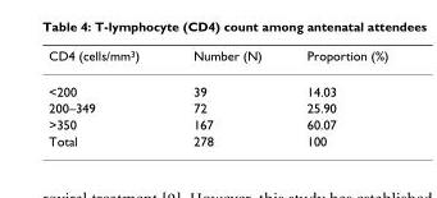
<table><thead><tr><td>CD4 (cells/mm<sup>3</sup>)</td><td>Number (N)</td><td>Proportion (%)</td></tr></thead><tbody><tr><td>&lt;200</td><td>39</td><td>14.03</td></tr><tr><td>200–349</td><td>72</td><td>25.90</td></tr><tr><td>&gt;350</td><td>167</td><td>60.07</td></tr><tr><td>Total</td><td>278</td><td>100</td></tr></tbody></table>